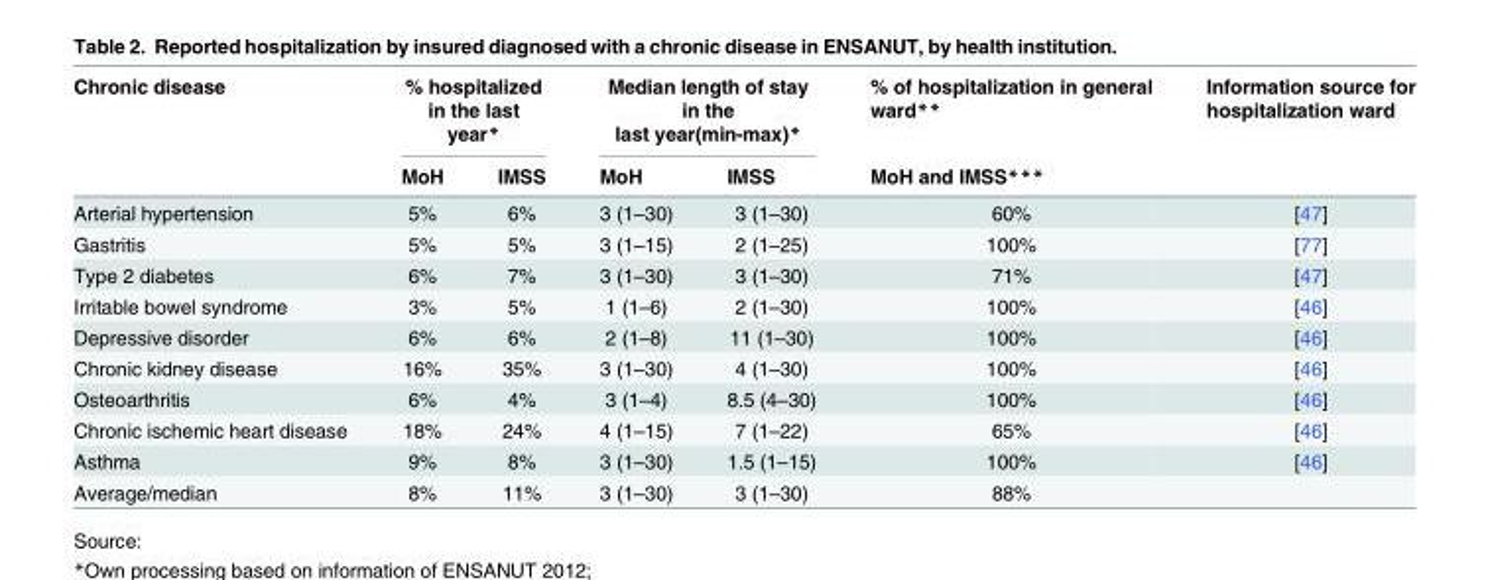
<table><thead><tr><td rowspan="2">Chronic disease</td><td colspan="2">% hospitalized in the last year*</td><td colspan="2">Median length of stay in the last year(min-max)*</td><td rowspan="2">% of hospitalization in general ward** MoH and IMSS***</td><td rowspan="2">Information source for hospitalization ward</td></tr><tr><td>MoH</td><td>IMSS</td><td>MoH</td><td>IMSS</td></tr></thead><tbody><tr><td>Arterial hypertension</td><td>5%</td><td>6%</td><td>3 (1–30)</td><td>3 (1–30)</td><td>60%</td><td>[47]</td></tr><tr><td>Gastritis</td><td>5%</td><td>5%</td><td>3 (1–15)</td><td>2 (1–25)</td><td>100%</td><td>[77]</td></tr><tr><td>Type 2 diabetes</td><td>6%</td><td>7%</td><td>3 (1–30)</td><td>3 (1–30)</td><td>71%</td><td>[47]</td></tr><tr><td>Irritable bowel syndrome</td><td>3%</td><td>5%</td><td>1 (1–6)</td><td>2 (1–30)</td><td>100%</td><td>[46]</td></tr><tr><td>Depressive disorder</td><td>6%</td><td>6%</td><td>2 (1–8)</td><td>11 (1–30)</td><td>100%</td><td>[46]</td></tr><tr><td>Chronic kidney disease</td><td>16%</td><td>35%</td><td>3 (1–30)</td><td>4 (1–30)</td><td>100%</td><td>[46]</td></tr><tr><td>Osteoarthritis</td><td>6%</td><td>4%</td><td>3 (1–4)</td><td>8.5 (4–30)</td><td>100%</td><td>[46]</td></tr><tr><td>Chronic ischemic heart disease</td><td>18%</td><td>24%</td><td>4 (1–15)</td><td>7 (1–22)</td><td>65%</td><td>[46]</td></tr><tr><td>Asthma</td><td>9%</td><td>8%</td><td>3 (1–30)</td><td>1.5 (1–15)</td><td>100%</td><td>[46]</td></tr><tr><td>Average/median</td><td>8%</td><td>11%</td><td>3 (1–30)</td><td>3 (1–30)</td><td>88%</td><td></td></tr></tbody></table>